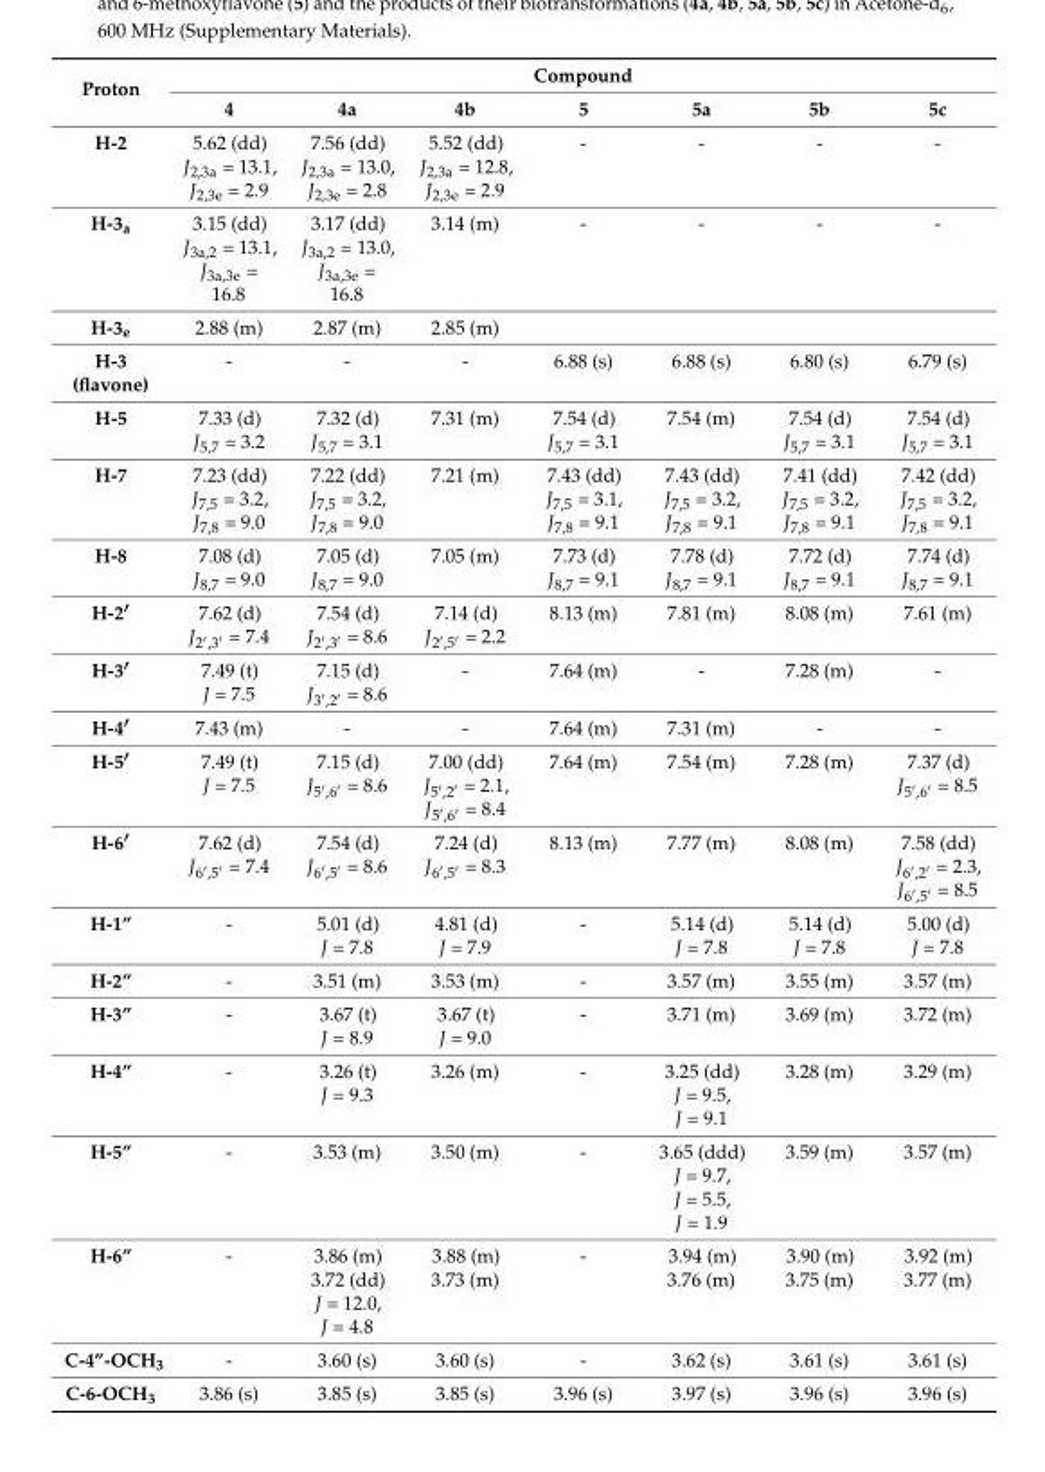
<table><thead><tr><td rowspan="2">Proton</td><td colspan="7">Compound</td></tr><tr><td>4</td><td>4a</td><td>4b</td><td>5</td><td>5a</td><td>5b</td><td>5c</td></tr></thead><tbody><tr><td>H-2</td><td>5.62 (dd) J2,3a = 13.1, J2,3e = 2.9</td><td>7.56 (dd) J2,3a = 13.0, J2,3e = 2.8</td><td>5.52 (dd) J2,3a = 12.8, J2,3e = 2.9</td><td>-</td><td>-</td><td>-</td><td>-</td></tr><tr><td>H-3a</td><td>3.15 (dd) J3a,2 = 13.1, J3a,3e = 16.8</td><td>3.17 (dd) J3a,2 = 13.0, J3a,3e = 16.8</td><td>3.14 (m)</td><td>-</td><td>-</td><td>-</td><td>-</td></tr><tr><td>H-3e</td><td>2.88 (m)</td><td>2.87 (m)</td><td>2.85 (m)</td><td></td><td></td><td></td><td></td></tr><tr><td>H-3 (flavone)</td><td>-</td><td>-</td><td>-</td><td>6.88 (s)</td><td>6.88 (s)</td><td>6.80 (s)</td><td>6.79 (s)</td></tr><tr><td>H-5</td><td>7.33 (d) J5,7 = 3.2</td><td>7.32 (d) J5,7 = 3.1</td><td>7.31 (m)</td><td>7.54 (d) J5,7 = 3.1</td><td>7.54 (m)</td><td>7.54 (d) J5,7 = 3.1</td><td>7.54 (d) J5,7 = 3.1</td></tr><tr><td>H-7</td><td>7.23 (dd) J7,5 = 3.2, J7,8 = 9.0</td><td>7.22 (dd) J7,5 = 3.2, J7,8 = 9.0</td><td>7.21 (m)</td><td>7.43 (dd) J7,5 = 3.1, J7,8 = 9.1</td><td>7.43 (dd) J7,5 = 3.2, J7,8 = 9.1</td><td>7.41 (dd) J7,5 = 3.2, J7,8 = 9.1</td><td>7.42 (dd) J7,5 = 3.2, J7,8 = 9.1</td></tr><tr><td>H-8</td><td>7.08 (d) J8,7 = 9.0</td><td>7.05 (d) J8,7 = 9.0</td><td>7.05 (m)</td><td>7.73 (d) J8,7 = 9.1</td><td>7.78 (d) J8,7 = 9.1</td><td>7.72 (d) J8,7 = 9.1</td><td>7.74 (d) J8,7 = 9.1</td></tr><tr><td>H-2′</td><td>7.62 (d) J2′,3′ = 7.4</td><td>7.54 (d) J2′,3′ = 8.6</td><td>7.14 (d) J2′,5′ = 2.2</td><td>8.13 (m)</td><td>7.81 (m)</td><td>8.08 (m)</td><td>7.61 (m)</td></tr><tr><td>H-3′</td><td>7.49 (t) J = 7.5</td><td>7.15 (d) J3′,2′ = 8.6</td><td>-</td><td>7.64 (m)</td><td>-</td><td>7.28 (m)</td><td>-</td></tr><tr><td>H-4′</td><td>7.43 (m)</td><td>-</td><td>-</td><td>7.64 (m)</td><td>7.31 (m)</td><td>-</td><td>-</td></tr><tr><td>H-5′</td><td>7.49 (t) J = 7.5</td><td>7.15 (d) J5′,6′ = 8.6</td><td>7.00 (dd) J5′,2′ = 2.1, J5′,6′ = 8.4</td><td>7.64 (m)</td><td>7.54 (m)</td><td>7.28 (m)</td><td>7.37 (d) J5′,6′ = 8.5</td></tr><tr><td>H-6′</td><td>7.62 (d) J6′,5′ = 7.4</td><td>7.54 (d) J6′,5′ = 8.6</td><td>7.24 (d) J6′,5′ = 8.3</td><td>8.13 (m)</td><td>7.77 (m)</td><td>8.08 (m)</td><td>7.58 (dd) J6′,2′ = 2.3, J6′,5′ = 8.5</td></tr><tr><td>H-1”</td><td>-</td><td>5.01 (d) J = 7.8</td><td>4.81 (d) J = 7.9</td><td>-</td><td>5.14 (d) J = 7.8</td><td>5.14 (d) J = 7.8</td><td>5.00 (d) J = 7.8</td></tr><tr><td>H-2”</td><td>-</td><td>3.51 (m)</td><td>3.53 (m)</td><td>-</td><td>3.57 (m)</td><td>3.55 (m)</td><td>3.57 (m)</td></tr><tr><td>H-3”</td><td>-</td><td>3.67 (t) J = 8.9</td><td>3.67 (t) J = 9.0</td><td>-</td><td>3.71 (m)</td><td>3.69 (m)</td><td>3.72 (m)</td></tr><tr><td>H-4”</td><td>-</td><td>3.26 (t) J = 9.3</td><td>3.26 (m)</td><td>-</td><td>3.25 (dd) J = 9.5, J = 9.1</td><td>3.28 (m)</td><td>3.29 (m)</td></tr><tr><td>H-5”</td><td>-</td><td>3.53 (m)</td><td>3.50 (m)</td><td>-</td><td>3.65 (ddd) J = 9.7, J = 5.5, J = 1.9</td><td>3.59 (m)</td><td>3.57 (m)</td></tr><tr><td>H-6”</td><td>-</td><td>3.86 (m) 3.72 (dd) J = 12.0, J = 4.8</td><td>3.88 (m) 3.73 (m)</td><td>-</td><td>3.94 (m) 3.76 (m)</td><td>3.90 (m) 3.75 (m)</td><td>3.92 (m) 3.77 (m)</td></tr><tr><td>C-4”-OCH3</td><td>-</td><td>3.60 (s)</td><td>3.60 (s)</td><td>-</td><td>3.62 (s)</td><td>3.61 (s)</td><td>3.61 (s)</td></tr><tr><td>C-6-OCH3</td><td>3.86 (s)</td><td>3.85 (s)</td><td>3.85 (s)</td><td>3.96 (s)</td><td>3.97 (s)</td><td>3.96 (s)</td><td>3.96 (s)</td></tr></tbody></table>